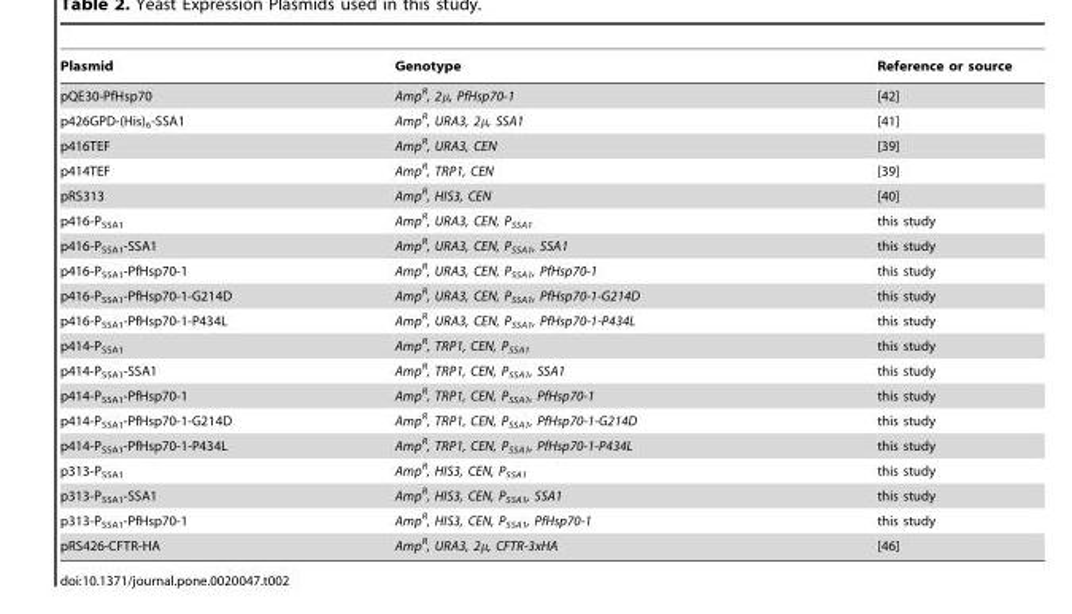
<table><thead><tr><td>Plasmid</td><td>Genotype</td><td>Reference or source</td></tr></thead><tbody><tr><td>pQE30-PfHsp70</td><td>Amp<sup>R</sup>, 2μ, PfHsp70-1</td><td>[42]</td></tr><tr><td>p426GPD-(His)<sub>6</sub>-SSA1</td><td>Amp<sup>R</sup>, URA3, 2μ, SSA1</td><td>[41]</td></tr><tr><td>p416TEF</td><td>Amp<sup>R</sup>, URA3, CEN</td><td>[39]</td></tr><tr><td>p414TEF</td><td>Amp<sup>R</sup>, TRP1, CEN</td><td>[39]</td></tr><tr><td>pRS313</td><td>Amp<sup>R</sup>, HIS3, CEN</td><td>[40]</td></tr><tr><td>p416-P<sub>SSA1</sub></td><td>Amp<sup>R</sup>, URA3, CEN, P<sub>SSA1</sub></td><td>this study</td></tr><tr><td>p416-P<sub>SSA1</sub>-SSA1</td><td>Amp<sup>R</sup>, URA3, CEN, P<sub>SSA1</sub>, SSA1</td><td>this study</td></tr><tr><td>p416-P<sub>SSA1</sub>-PfHsp70-1</td><td>Amp<sup>R</sup>, URA3, CEN, P<sub>SSA1</sub>, PfHsp70-1</td><td>this study</td></tr><tr><td>p416-P<sub>SSA1</sub>-PfHsp70-1-G214D</td><td>Amp<sup>R</sup>, URA3, CEN, P<sub>SSA1</sub>, PfHsp70-1-G214D</td><td>this study</td></tr><tr><td>p416-P<sub>SSA1</sub>-PfHsp70-1-P434L</td><td>Amp<sup>R</sup>, URA3, CEN, P<sub>SSA1</sub>, PfHsp70-1-P434L</td><td>this study</td></tr><tr><td>p414-P<sub>SSA1</sub></td><td>Amp<sup>R</sup>, TRP1, CEN, P<sub>SSA1</sub></td><td>this study</td></tr><tr><td>p414-P<sub>SSA1</sub>-SSA1</td><td>Amp<sup>R</sup>, TRP1, CEN, P<sub>SSA1</sub>, SSA1</td><td>this study</td></tr><tr><td>p414-P<sub>SSA1</sub>-PfHsp70-1</td><td>Amp<sup>R</sup>, TRP1, CEN, P<sub>SSA1</sub>, PfHsp70-1</td><td>this study</td></tr><tr><td>p414-P<sub>SSA1</sub>-PfHsp70-1-G214D</td><td>Amp<sup>R</sup>, TRP1, CEN, P<sub>SSA1</sub>, PfHsp70-1-G214D</td><td>this study</td></tr><tr><td>p414-P<sub>SSA1</sub>-PfHsp70-1-P434L</td><td>Amp<sup>R</sup>, TRP1, CEN, P<sub>SSA1</sub>, PfHsp70-1-P434L</td><td>this study</td></tr><tr><td>p313-P<sub>SSA1</sub></td><td>Amp<sup>R</sup>, HIS3, CEN, P<sub>SSA1</sub></td><td>this study</td></tr><tr><td>p313-P<sub>SSA1</sub>-SSA1</td><td>Amp<sup>R</sup>, HIS3, CEN, P<sub>SSA1</sub>, SSA1</td><td>this study</td></tr><tr><td>p313-P<sub>SSA1</sub>-PfHsp70-1</td><td>Amp<sup>R</sup>, HIS3, CEN, P<sub>SSA1</sub>, PfHsp70-1</td><td>this study</td></tr><tr><td>pRS426-CFTR-HA</td><td>Amp<sup>R</sup>, URA3, 2μ, CFTR-3xHA</td><td>[46]</td></tr></tbody></table>